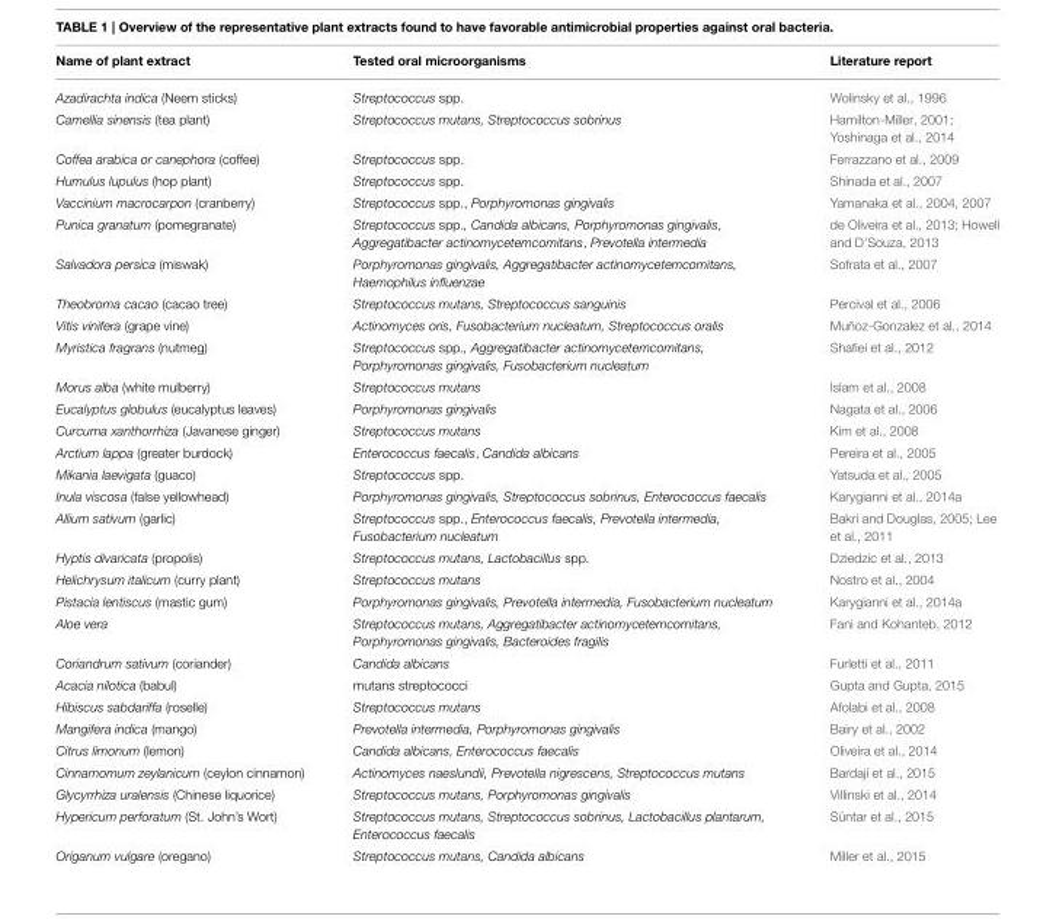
<table><thead><tr><td>Name of plant extract</td><td>Tested oral microorganisms</td><td>Literature report</td></tr></thead><tbody><tr><td>Azadirachta indica (Neem sticks)</td><td>Streptococcus spp.</td><td>Wolinsky et al., 1996</td></tr><tr><td>Camellia sinensis (tea plant)</td><td>Streptococcus mutans, Streptococcus sobrinus</td><td>Hamilton-Miller, 2001; Yoshinaga et al., 2014</td></tr><tr><td>Coffea arabica or canephora (coffee)</td><td>Streptococcus spp.</td><td>Ferrazzano et al., 2009</td></tr><tr><td>Humulus lupulus (hop plant)</td><td>Streptococcus spp.</td><td>Shinada et al., 2007</td></tr><tr><td>Vaccinium macrocarpon (cranberry)</td><td>Streptococcus spp., Porphyromonas gingivalis</td><td>Yamanaka et al., 2004, 2007</td></tr><tr><td>Punica granatum (pomegranate)</td><td>Streptococcus spp., Candida albicans, Porphyromonas gingivalis, Aggregatibacter actinomycetemcomitans, Prevotella intermedia</td><td>de Oliveira et al., 2013; Howell and D’Souza, 2013</td></tr><tr><td>Salvadora persica (miswak)</td><td>Porphyromonas gingivalis, Aggregatibacter actinomycetemcomitans, Haemophilus influenzae</td><td>Sofrata et al., 2007</td></tr><tr><td>Theobroma cacao (cacao tree)</td><td>Streptococcus mutans, Streptococcus sanguinis</td><td>Percival et al., 2006</td></tr><tr><td>Vitis vinifera (grape vine)</td><td>Actinomyces oris, Fusobacterium nucleatum, Streptococcus oralis</td><td>Muñoz-Gonzalez et al., 2014</td></tr><tr><td>Myristica fragrans (nutmeg)</td><td>Streptococcus spp., Aggregatibacter actinomycetemcomitans, Porphyromonas gingivalis, Fusobacterium nucleatum</td><td>Shafiei et al., 2012</td></tr><tr><td>Morus alba (white mulberry)</td><td>Streptococcus mutans</td><td>Islam et al., 2008</td></tr><tr><td>Eucalyptus globulus (eucalyptus leaves)</td><td>Porphyromonas gingivalis</td><td>Nagata et al., 2006</td></tr><tr><td>Curcuma xanthorrhiza (Javanese ginger)</td><td>Streptococcus mutans</td><td>Kim et al., 2008</td></tr><tr><td>Arctium lappa (greater burdock)</td><td>Enterococcus faecalis, Candida albicans</td><td>Pereira et al., 2005</td></tr><tr><td>Mikania laevigata (guaco)</td><td>Streptococcus spp.</td><td>Yatsuda et al., 2005</td></tr><tr><td>Inula viscosa (false yellowhead)</td><td>Porphyromonas gingivalis, Streptococcus sobrinus, Enterococcus faecalis</td><td>Karygianni et al., 2014a</td></tr><tr><td>Allium sativum (garlic)</td><td>Streptococcus spp., Enterococcus faecalis, Prevotella intermedia, Fusobacterium nucleatum</td><td>Bakri and Douglas, 2005; Lee et al., 2011</td></tr><tr><td>Hyptis divaricata (propolis)</td><td>Streptococcus mutans, Lactobacillus spp.</td><td>Dziedzic et al., 2013</td></tr><tr><td>Helichrysum italicum (curry plant)</td><td>Streptococcus mutans</td><td>Nostro et al., 2004</td></tr><tr><td>Pistacia lentiscus (mastic gum)</td><td>Porphyromonas gingivalis, Prevotella intermedia, Fusobacterium nucleatum</td><td>Karygianni et al., 2014a</td></tr><tr><td>Aloe vera</td><td>Streptococcus mutans, Aggregatibacter actinomycetemcomitans, Porphyromonas gingivalis, Bacteroides fragilis</td><td>Fani and Kohanteb, 2012</td></tr><tr><td>Coriandrum sativum (coriander)</td><td>Candida albicans</td><td>Furletti et al., 2011</td></tr><tr><td>Acacia nilotica (babul)</td><td>mutans streptococci</td><td>Gupta and Gupta, 2015</td></tr><tr><td>Hibiscus sabdariffa (roselle)</td><td>Streptococcus mutans</td><td>Afolabi et al., 2008</td></tr><tr><td>Mangifera indica (mango)</td><td>Prevotella intermedia, Porphyromonas gingivalis</td><td>Bairy et al., 2002</td></tr><tr><td>Citrus limonum (lemon)</td><td>Candida albicans, Enterococcus faecalis</td><td>Oliveira et al., 2014</td></tr><tr><td>Cinnamomum zeylanicum (ceylon cinnamon)</td><td>Actinomyces naeslundii, Prevotella nigrescens, Streptococcus mutans</td><td>Bardají et al., 2015</td></tr><tr><td>Glycyrrhiza uralensis (Chinese liquorice)</td><td>Streptococcus mutans, Porphyromonas gingivalis</td><td>Villinski et al., 2014</td></tr><tr><td>Hypericum perforatum (St. John’s Wort)</td><td>Streptococcus mutans, Streptococcus sobrinus, Lactobacillus plantarum, Enterococcus faecalis</td><td>Süntar et al., 2015</td></tr><tr><td>Origanum vulgare (oregano)</td><td>Streptococcus mutans, Candida albicans</td><td>Miller et al., 2015</td></tr></tbody></table>